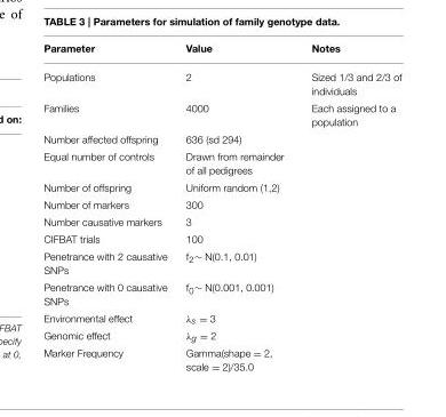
<table><thead><tr><td>Parameter</td><td>Value</td><td>Notes</td></tr></thead><tbody><tr><td>Populations</td><td>2</td><td>Sized 1/3 and 2/3 of individuals</td></tr><tr><td>Families</td><td>4000</td><td>Each assigned to a population</td></tr><tr><td>Number affected offspring</td><td>636 (sd 294)</td><td></td></tr><tr><td>Equal number of controls</td><td>Drawn from remainder of all pedigrees</td><td></td></tr><tr><td>Number of offspring</td><td>Uniform random (1,2)</td><td></td></tr><tr><td>Number of markers</td><td>300</td><td></td></tr><tr><td>Number causative markers</td><td>3</td><td></td></tr><tr><td>CIFBAT trials</td><td>100</td><td></td></tr><tr><td>Penetrance with 2 causative SNPs</td><td>f2∼ N(0.1, 0.01)</td><td></td></tr><tr><td>Penetrance with 0 causative SNPs</td><td>f0∼ N(0.001, 0.001)</td><td></td></tr><tr><td>Environmental effect</td><td>λ<sub>s</sub> = 3</td><td></td></tr><tr><td>Genomic effect</td><td>λ<sub>g</sub> = 2</td><td></td></tr><tr><td>Marker Frequency</td><td>Gamma(shape = 2, scale = 2)/35.0</td><td></td></tr></tbody></table>